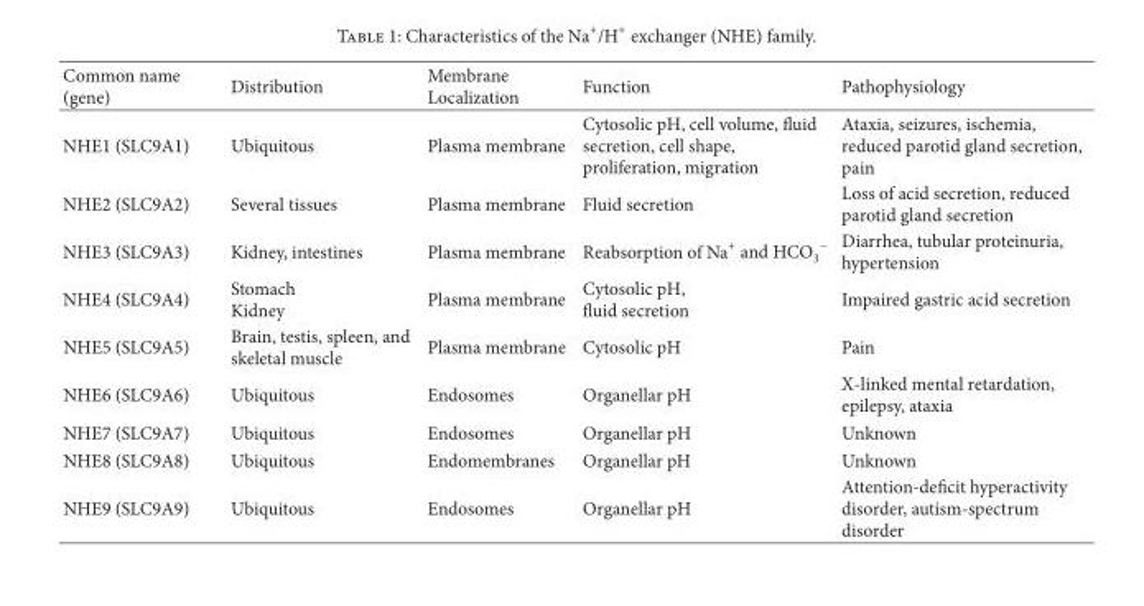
<table><thead><tr><td>Common name (gene)</td><td>Distribution</td><td>Membrane Localization</td><td>Function</td><td>Pathophysiology</td></tr></thead><tbody><tr><td>NHE1 (SLC9A1)</td><td>Ubiquitous</td><td>Plasma membrane</td><td>Cytosolic pH, cell volume, �uid secretion, cell shape, proliferation, migration</td><td>Ataxia, seizures, ischemia, reduced parotid gland secretion, pain</td></tr><tr><td>NHE2 (SLC9A2)</td><td>Several tissues</td><td>Plasma membrane</td><td>Fluid secretion</td><td>Loss of acid secretion, reduced parotid gland secretion</td></tr><tr><td>NHE3 (SLC9A3)</td><td>Kidney, intestines</td><td>Plasma membrane</td><td>Reabsorption of Na<sup>+</sup> and HCO<sub>3</sub> <sup>−</sup></td><td>Diarrhea, tubular proteinuria, hypertension</td></tr><tr><td>NHE4 (SLC9A4)</td><td>Stomach Kidney</td><td>Plasma membrane</td><td>Cytosolic pH, �uid secretion</td><td>Impaired gastric acid secretion</td></tr><tr><td>NHE5 (SLC9A5)</td><td>Brain, testis, spleen, and skeletal muscle</td><td>Plasma membrane</td><td>Cytosolic pH</td><td>Pain</td></tr><tr><td>NHE6 (SLC9A6)</td><td>Ubiquitous</td><td>Endosomes</td><td>Organellar pH</td><td>X-linked mental retardation, epilepsy, ataxia</td></tr><tr><td>NHE7 (SLC9A7)</td><td>Ubiquitous</td><td>Endosomes</td><td>Organellar pH</td><td>Unknown</td></tr><tr><td>NHE8 (SLC9A8)</td><td>Ubiquitous</td><td>Endomembranes</td><td>Organellar pH</td><td>Unknown</td></tr><tr><td>NHE9 (SLC9A9)</td><td>Ubiquitous</td><td>Endosomes</td><td>Organellar pH</td><td>Attention-de�cit hyperactivity disorder, autism-spectrum disorder</td></tr></tbody></table>